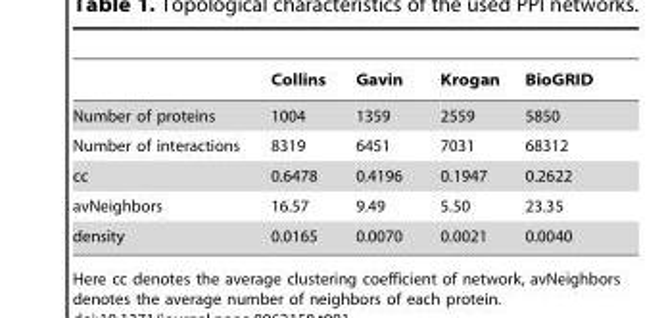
<table><thead><tr><td></td><td>Collins</td><td>Gavin</td><td>Krogan</td><td>BioGRID</td></tr></thead><tbody><tr><td>Number of proteins</td><td>1004</td><td>1359</td><td>2559</td><td>5850</td></tr><tr><td>Number of interactions</td><td>8319</td><td>6451</td><td>7031</td><td>68312</td></tr><tr><td>cc</td><td>0.6478</td><td>0.4196</td><td>0.1947</td><td>0.2622</td></tr><tr><td>avNeighbors</td><td>16.57</td><td>9.49</td><td>5.50</td><td>23.35</td></tr><tr><td>density</td><td>0.0165</td><td>0.0070</td><td>0.0021</td><td>0.0040</td></tr></tbody></table>